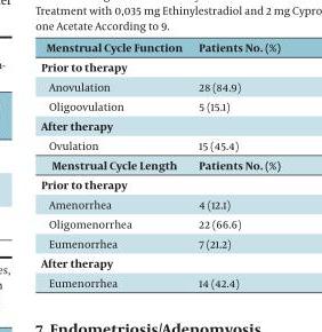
<table><thead><tr><td>Menstrual Cycle Function</td><td>Patients No. (%)</td></tr></thead><tbody><tr><td colspan="2">Prior to therapy</td></tr><tr><td>Anovulation</td><td>28 (84.9)</td></tr><tr><td>Oligoovulation</td><td>5 (15.1)</td></tr><tr><td colspan="2">After therapy</td></tr><tr><td>Ovulation</td><td>15 (45.4)</td></tr><tr><td>Menstrual Cycle Length</td><td>Patients No. (%)</td></tr><tr><td colspan="2">Prior to therapy</td></tr><tr><td>Amenorrhea</td><td>4 (12.1)</td></tr><tr><td>Oligomenorrhea</td><td>22 (66.6)</td></tr><tr><td>Eumenorrhea</td><td>7 (21.2)</td></tr><tr><td colspan="2">After therapy</td></tr><tr><td>Eumenorrhea</td><td>14 (42.4)</td></tr></tbody></table>